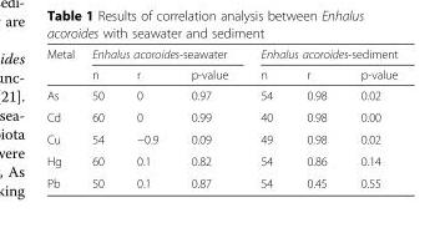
<table><thead><tr><td rowspan="2">Metal</td><td colspan="3">Enhalus acoroides-seawater</td><td colspan="3">Enhalus acoroides-sediment</td></tr><tr><td>n</td><td>r</td><td>p-value</td><td>n</td><td>r</td><td>p-value</td></tr></thead><tbody><tr><td>As</td><td>50</td><td>0</td><td>0.97</td><td>54</td><td>0.98</td><td>0.02</td></tr><tr><td>Cd</td><td>60</td><td>0</td><td>0.99</td><td>40</td><td>0.98</td><td>0.00</td></tr><tr><td>Cu</td><td>54</td><td>−0.9</td><td>0.09</td><td>49</td><td>0.98</td><td>0.02</td></tr><tr><td>Hg</td><td>60</td><td>0.1</td><td>0.82</td><td>54</td><td>0.86</td><td>0.14</td></tr><tr><td>Pb</td><td>50</td><td>0.1</td><td>0.87</td><td>54</td><td>0.45</td><td>0.55</td></tr></tbody></table>